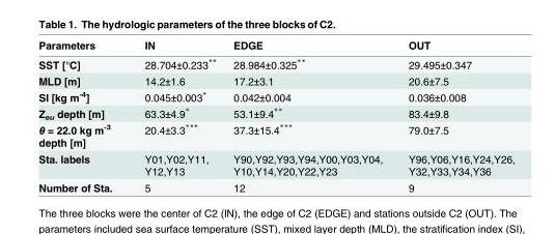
<table><thead><tr><td>Parameters</td><td>IN</td><td>EDGE</td><td>OUT</td></tr></thead><tbody><tr><td>SST [°C]</td><td>28.704±0.233**</td><td>28.984±0.325**</td><td>29.495±0.347</td></tr><tr><td>MLD [m]</td><td>14.2±1.6</td><td>17.2±3.1</td><td>20.6±7.5</td></tr><tr><td>SI [kg m<sup>-4</sup>]</td><td>0.045±0.003*</td><td>0.042±0.004</td><td>0.036±0.008</td></tr><tr><td>Z<sub>eu</sub> depth [m]</td><td>63.3±4.9*</td><td>53.1±9.4**</td><td>83.4±9.8</td></tr><tr><td>θ = 22.0 kg m<sup>-3</sup> depth [m]</td><td>20.4±3.3***</td><td>37.3±15.4***</td><td>79.0±7.5</td></tr><tr><td>Sta. labels</td><td>Y01,Y02,Y11, Y12,Y13</td><td>Y90,Y92,Y93,Y94,Y00,Y03,Y04, Y10,Y14,Y20,Y22,Y23</td><td>Y96,Y06,Y16,Y24,Y26, Y32,Y33,Y34,Y36</td></tr><tr><td>Number of Sta.</td><td>5</td><td>12</td><td>9</td></tr></tbody></table>